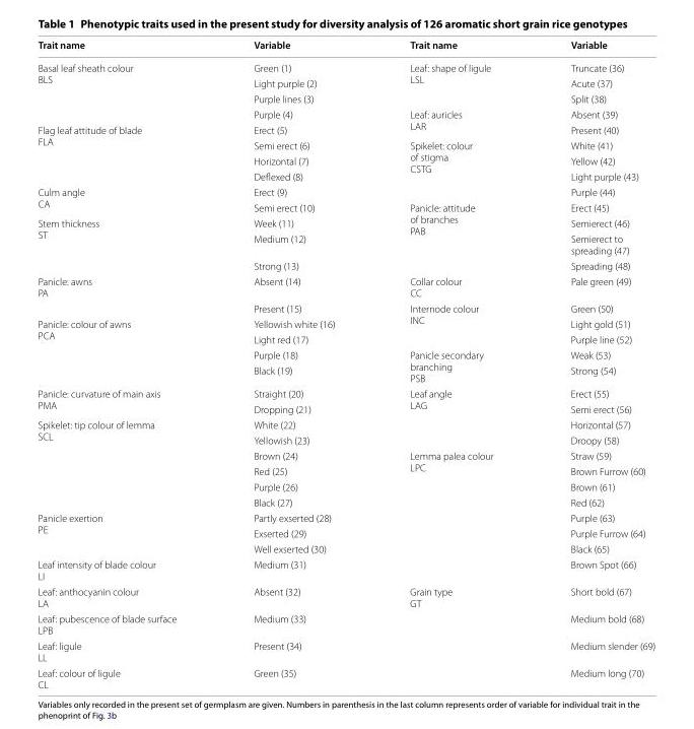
<table><thead><tr><td>Trait name</td><td>Variable</td><td>Trait name</td><td>Variable</td></tr></thead><tbody><tr><td rowspan="4">Basal leaf sheath colour BLS</td><td>Green (1)</td><td rowspan="3">Leaf: shape of ligule LSL</td><td>Truncate (36)</td></tr><tr><td>Light purple (2)</td><td>Acute (37)</td></tr><tr><td>Purple lines (3)</td><td>Split (38)</td></tr><tr><td>Purple (4)</td><td rowspan="2">Leaf: auricles LAR</td><td>Absent (39)</td></tr><tr><td rowspan="4">Flag leaf attitude of blade FLA</td><td>Erect (5)</td><td>Present (40)</td></tr><tr><td>Semi erect (6)</td><td rowspan="4">Spikelet: colour of stigma CSTG</td><td>White (41)</td></tr><tr><td>Horizontal (7)</td><td>Yellow (42)</td></tr><tr><td>Deflexed (8)</td><td>Light purple (43)</td></tr><tr><td rowspan="2">Culm angle CA</td><td>Erect (9)</td><td>Purple (44)</td></tr><tr><td>Semi erect (10)</td><td rowspan="4">Panicle: attitude of branches PAB</td><td>Erect (45)</td></tr><tr><td rowspan="3">Stem thickness ST</td><td>Week (11)</td><td>Semierect (46)</td></tr><tr><td>Medium (12)</td><td>Semierect to spreading (47)</td></tr><tr><td>Strong (13)</td><td>Spreading (48)</td></tr><tr><td rowspan="2">Panicle: awns PA</td><td>Absent (14)</td><td>Collar colour CC</td><td>Pale green (49)</td></tr><tr><td>Present (15)</td><td rowspan="3">Internode colour INC</td><td>Green (50)</td></tr><tr><td rowspan="4">Panicle: colour of awns PCA</td><td>Yellowish white (16)</td><td>Light gold (51)</td></tr><tr><td>Light red (17)</td><td>Purple line (52)</td></tr><tr><td>Purple (18)</td><td rowspan="2">Panicle secondary branching PSB</td><td>Weak (53)</td></tr><tr><td>Black (19)</td><td>Strong (54)</td></tr><tr><td rowspan="2">Panicle: curvature of main axis PMA</td><td>Straight (20)</td><td rowspan="4">Leaf angle LAG</td><td>Erect (55)</td></tr><tr><td>Dropping (21)</td><td>Semi erect (56)</td></tr><tr><td rowspan="6">Spikelet: tip colour of lemma SCL</td><td>White (22)</td><td>Horizontal (57)</td></tr><tr><td>Yellowish (23)</td><td>Droopy (58)</td></tr><tr><td>Brown (24)</td><td rowspan="8">Lemma palea colour LPC</td><td>Straw (59)</td></tr><tr><td>Red (25)</td><td>Brown Furrow (60)</td></tr><tr><td>Purple (26)</td><td>Brown (61)</td></tr><tr><td>Black (27)</td><td>Red (62)</td></tr><tr><td rowspan="3">Panicle exertion PE</td><td>Partly exserted (28)</td><td>Purple (63)</td></tr><tr><td>Exserted (29)</td><td>Purple Furrow (64)</td></tr><tr><td>Well exserted (30)</td><td>Black (65)</td></tr><tr><td>Leaf intensity of blade colour LI</td><td>Medium (31)</td><td>Brown Spot (66)</td></tr><tr><td>Leaf: anthocyanin colour LA</td><td>Absent (32)</td><td rowspan="4">Grain type GT</td><td>Short bold (67)</td></tr><tr><td>Leaf: pubescence of blade surface LPB</td><td>Medium (33)</td><td>Medium bold (68)</td></tr><tr><td>Leaf: ligule LL</td><td>Present (34)</td><td>Medium slender (69)</td></tr><tr><td>Leaf: colour of ligule CL</td><td>Green (35)</td><td>Medium long (70)</td></tr></tbody></table>